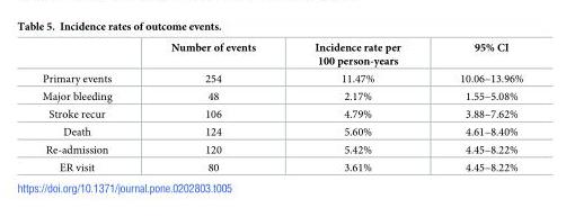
<table><thead><tr><td></td><td>Number of events</td><td>Incidence rate per 100 person-years</td><td>95% CI</td></tr></thead><tbody><tr><td>Primary events</td><td>254</td><td>11.47%</td><td>10.06–13.96%</td></tr><tr><td>Major bleeding</td><td>48</td><td>2.17%</td><td>1.55–5.08%</td></tr><tr><td>Stroke recur</td><td>106</td><td>4.79%</td><td>3.88–7.62%</td></tr><tr><td>Death</td><td>124</td><td>5.60%</td><td>4.61–8.40%</td></tr><tr><td>Re-admission</td><td>120</td><td>5.42%</td><td>4.45–8.22%</td></tr><tr><td>ER visit</td><td>80</td><td>3.61%</td><td>4.45–8.22%</td></tr></tbody></table>